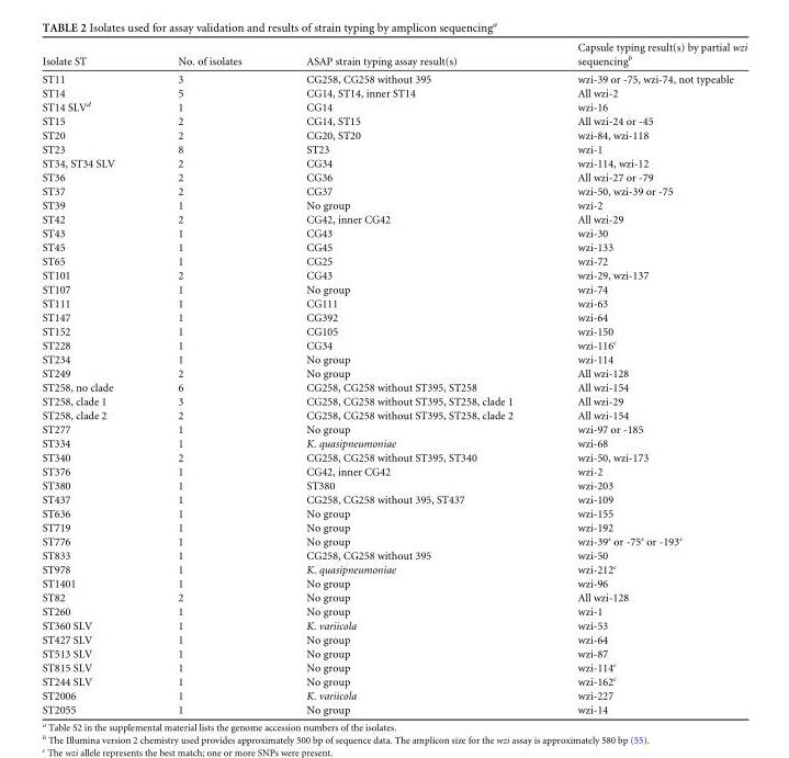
<table><thead><tr><td>Isolate ST</td><td>No. of isolates</td><td>ASAP strain typing assay result(s)</td><td>Capsule typing result(s) by partial wzi sequencing<sup>b</sup></td></tr></thead><tbody><tr><td>ST11</td><td>3</td><td>CG258, CG258 without 395</td><td>wzi-39 or -75, wzi-74, not typeable</td></tr><tr><td>ST14</td><td>5</td><td>CG14, ST14, inner ST14</td><td>All wzi-2</td></tr><tr><td>ST14 SLV<sup>d</sup></td><td>1</td><td>CG14</td><td>wzi-16</td></tr><tr><td>ST15</td><td>2</td><td>CG14, ST15</td><td>All wzi-24 or -45</td></tr><tr><td>ST20</td><td>2</td><td>CG20, ST20</td><td>wzi-84, wzi-118</td></tr><tr><td>ST23</td><td>8</td><td>ST23</td><td>wzi-1</td></tr><tr><td>ST34, ST34 SLV</td><td>2</td><td>CG34</td><td>wzi-114, wzi-12</td></tr><tr><td>ST36</td><td>2</td><td>CG36</td><td>All wzi-27 or -79</td></tr><tr><td>ST37</td><td>2</td><td>CG37</td><td>wzi-50, wzi-39 or -75</td></tr><tr><td>ST39</td><td>1</td><td>No group</td><td>wzi-2</td></tr><tr><td>ST42</td><td>2</td><td>CG42, inner CG42</td><td>All wzi-29</td></tr><tr><td>ST43</td><td>1</td><td>CG43</td><td>wzi-30</td></tr><tr><td>ST45</td><td>1</td><td>CG45</td><td>wzi-133</td></tr><tr><td>ST65</td><td>1</td><td>CG25</td><td>wzi-72</td></tr><tr><td>ST101</td><td>2</td><td>CG43</td><td>wzi-29, wzi-137</td></tr><tr><td>ST107</td><td>1</td><td>No group</td><td>wzi-74</td></tr><tr><td>ST111</td><td>1</td><td>CG111</td><td>wzi-63</td></tr><tr><td>ST147</td><td>1</td><td>CG392</td><td>wzi-64</td></tr><tr><td>ST152</td><td>1</td><td>CG105</td><td>wzi-150</td></tr><tr><td>ST228</td><td>1</td><td>CG34</td><td>wzi-116<sup>c</sup></td></tr><tr><td>ST234</td><td>1</td><td>No group</td><td>wzi-114</td></tr><tr><td>ST249</td><td>2</td><td>No group</td><td>All wzi-128</td></tr><tr><td>ST258, no clade</td><td>6</td><td>CG258, CG258 without ST395, ST258</td><td>All wzi-154</td></tr><tr><td>ST258, clade 1</td><td>3</td><td>CG258, CG258 without ST395, ST258, clade 1</td><td>All wzi-29</td></tr><tr><td>ST258, clade 2</td><td>2</td><td>CG258, CG258 without ST395, ST258, clade 2</td><td>All wzi-154</td></tr><tr><td>ST277</td><td>1</td><td>No group</td><td>wzi-97 or -185</td></tr><tr><td>ST334</td><td>1</td><td>K. quasipneumoniae</td><td>wzi-68</td></tr><tr><td>ST340</td><td>2</td><td>CG258, CG258 without ST395, ST340</td><td>wzi-50, wzi-173</td></tr><tr><td>ST376</td><td>1</td><td>CG42, inner CG42</td><td>wzi-2</td></tr><tr><td>ST380</td><td>1</td><td>ST380</td><td>wzi-203</td></tr><tr><td>ST437</td><td>1</td><td>CG258, CG258 without 395, ST437</td><td>wzi-109</td></tr><tr><td>ST636</td><td>1</td><td>No group</td><td>wzi-155</td></tr><tr><td>ST719</td><td>1</td><td>No group</td><td>wzi-192</td></tr><tr><td>ST776</td><td>1</td><td>No group</td><td>wzi-39<sup>c</sup> or -75<sup>c</sup> or -193<sup>c</sup></td></tr><tr><td>ST833</td><td>1</td><td>CG258, CG258 without 395</td><td>wzi-50</td></tr><tr><td>ST978</td><td>1</td><td>K. quasipneumoniae</td><td>wzi-212<sup>c</sup></td></tr><tr><td>ST1401</td><td>1</td><td>No group</td><td>wzi-96</td></tr><tr><td>ST82</td><td>2</td><td>No group</td><td>All wzi-128</td></tr><tr><td>ST260</td><td>1</td><td>No group</td><td>wzi-1</td></tr><tr><td>ST360 SLV</td><td>1</td><td>K. variicola</td><td>wzi-53</td></tr><tr><td>ST427 SLV</td><td>1</td><td>No group</td><td>wzi-64</td></tr><tr><td>ST513 SLV</td><td>1</td><td>No group</td><td>wzi-87</td></tr><tr><td>ST815 SLV</td><td>1</td><td>No group</td><td>wzi-114<sup>c</sup></td></tr><tr><td>ST244 SLV</td><td>1</td><td>No group</td><td>wzi-162<sup>c</sup></td></tr><tr><td>ST2006</td><td>1</td><td>K. variicola</td><td>wzi-227</td></tr><tr><td>ST2055</td><td>1</td><td>No group</td><td>wzi-14</td></tr></tbody></table>